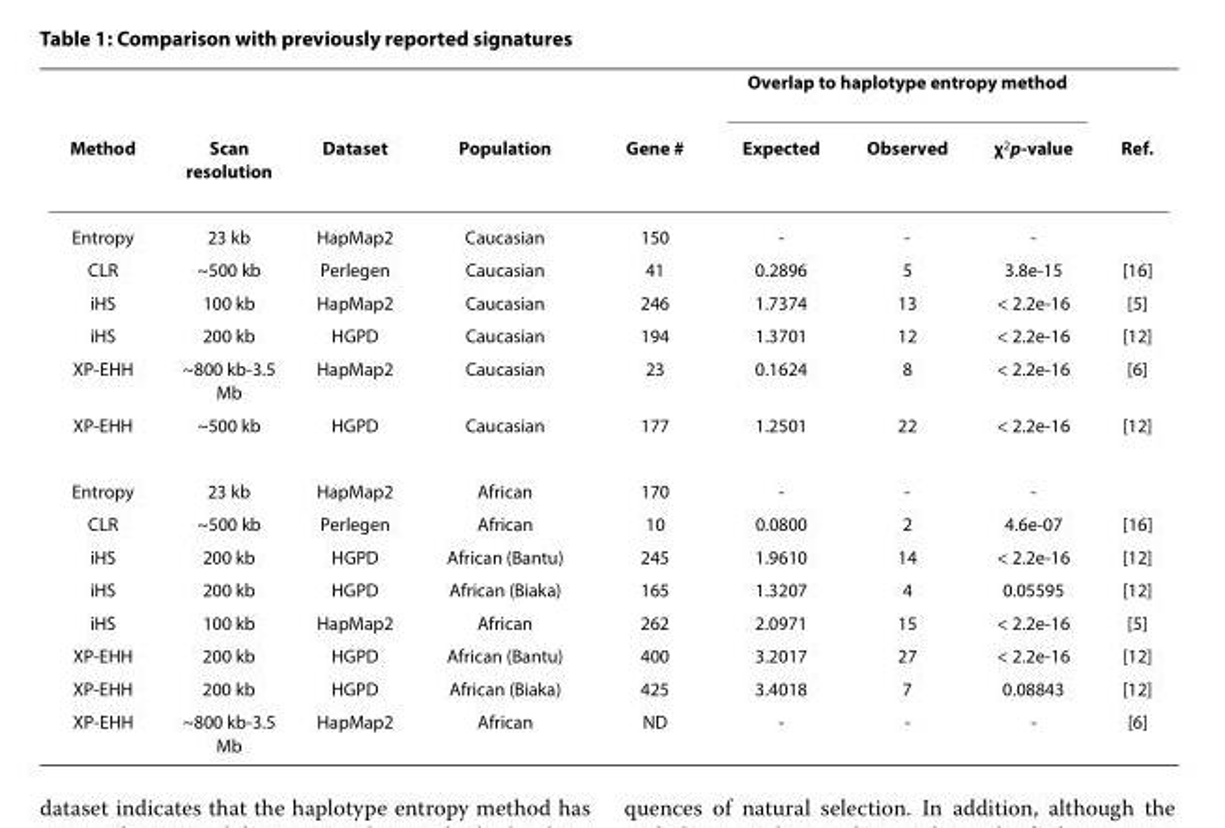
<table><thead><tr><td rowspan="2">Method</td><td rowspan="2">Scan resolution</td><td rowspan="2">Dataset</td><td rowspan="2">Population</td><td rowspan="2">Gene #</td><td colspan="3">Overlap to haplotype entropy method</td><td rowspan="2">Ref.</td></tr><tr><td>Expected</td><td>Observed</td><td>χ<sup>2</sup>p-value</td></tr></thead><tbody><tr><td>Entropy</td><td>23 kb</td><td>HapMap2</td><td>Caucasian</td><td>150</td><td>-</td><td>-</td><td>-</td><td></td></tr><tr><td>CLR</td><td>~500 kb</td><td>Perlegen</td><td>Caucasian</td><td>41</td><td>0.2896</td><td>5</td><td>3.8e-15</td><td>[16]</td></tr><tr><td>iHS</td><td>100 kb</td><td>HapMap2</td><td>Caucasian</td><td>246</td><td>1.7374</td><td>13</td><td>&lt; 2.2e-16</td><td>[5]</td></tr><tr><td>iHS</td><td>200 kb</td><td>HGPD</td><td>Caucasian</td><td>194</td><td>1.3701</td><td>12</td><td>&lt; 2.2e-16</td><td>[12]</td></tr><tr><td>XP-EHH</td><td>~800 kb-3.5 Mb</td><td>HapMap2</td><td>Caucasian</td><td>23</td><td>0.1624</td><td>8</td><td>&lt; 2.2e-16</td><td>[6]</td></tr><tr><td>XP-EHH</td><td>~500 kb</td><td>HGPD</td><td>Caucasian</td><td>177</td><td>1.2501</td><td>22</td><td>&lt; 2.2e-16</td><td>[12]</td></tr><tr><td>Entropy</td><td>23 kb</td><td>HapMap2</td><td>African</td><td>170</td><td>-</td><td>-</td><td>-</td><td></td></tr><tr><td>CLR</td><td>~500 kb</td><td>Perlegen</td><td>African</td><td>10</td><td>0.0800</td><td>2</td><td>4.6e-07</td><td>[16]</td></tr><tr><td>iHS</td><td>200 kb</td><td>HGPD</td><td>African (Bantu)</td><td>245</td><td>1.9610</td><td>14</td><td>&lt; 2.2e-16</td><td>[12]</td></tr><tr><td>iHS</td><td>200 kb</td><td>HGPD</td><td>African (Biaka)</td><td>165</td><td>1.3207</td><td>4</td><td>0.05595</td><td>[12]</td></tr><tr><td>iHS</td><td>100 kb</td><td>HapMap2</td><td>African</td><td>262</td><td>2.0971</td><td>15</td><td>&lt; 2.2e-16</td><td>[5]</td></tr><tr><td>XP-EHH</td><td>200 kb</td><td>HGPD</td><td>African (Bantu)</td><td>400</td><td>3.2017</td><td>27</td><td>&lt; 2.2e-16</td><td>[12]</td></tr><tr><td>XP-EHH</td><td>200 kb</td><td>HGPD</td><td>African (Biaka)</td><td>425</td><td>3.4018</td><td>7</td><td>0.08843</td><td>[12]</td></tr><tr><td>XP-EHH</td><td>~800 kb-3.5 Mb</td><td>HapMap2</td><td>African</td><td>ND</td><td>-</td><td>-</td><td>-</td><td>[6]</td></tr></tbody></table>